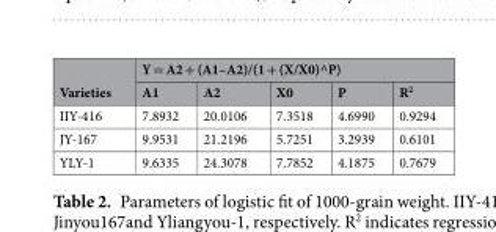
<table><thead><tr><td rowspan="2">Varieties</td><td colspan="5">Y = A2 + (A1–A2)/(1 + (X/X0)^P)</td></tr><tr><td>A1</td><td>A2</td><td>X0</td><td>P</td><td>R<sup>2</sup></td></tr></thead><tbody><tr><td>IIY-416</td><td>7.8932</td><td>20.0106</td><td>7.3518</td><td>4.6990</td><td>0.9294</td></tr><tr><td>JY-167</td><td>9.9531</td><td>21.2196</td><td>5.7251</td><td>3.2939</td><td>0.6101</td></tr><tr><td>YLY-1</td><td>9.6335</td><td>24.3078</td><td>7.7852</td><td>4.1875</td><td>0.7679</td></tr></tbody></table>